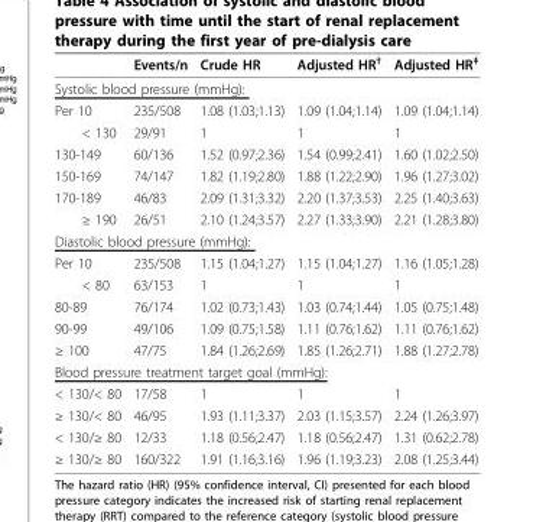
<table><thead><tr><td></td><td>Events/n</td><td>Crude HR</td><td>Adjusted HR<sup>†</sup></td><td>Adjusted HR<sup>‡</sup></td></tr></thead><tbody><tr><td colspan="5">Systolic blood pressure (mmHg):</td></tr><tr><td>Per 10</td><td>235/508</td><td>1.08 (1.03;1.13)</td><td>1.09 (1.04;1.14)</td><td>1.09 (1.04;1.14)</td></tr><tr><td>&lt; 130</td><td>29/91</td><td>1</td><td>1</td><td>1</td></tr><tr><td>130-149</td><td>60/136</td><td>1.52 (0.97;2.36)</td><td>1.54 (0.99;2.41)</td><td>1.60 (1.02;2.50)</td></tr><tr><td>150-169</td><td>74/147</td><td>1.82 (1.19;2.80)</td><td>1.88 (1.22;2.90)</td><td>1.96 (1.27;3.02)</td></tr><tr><td>170-189</td><td>46/83</td><td>2.09 (1.31;3.32)</td><td>2.20 (1.37;3.53)</td><td>2.25 (1.40;3.63)</td></tr><tr><td>≥ 190</td><td>26/51</td><td>2.10 (1.24;3.57)</td><td>2.27 (1.33;3.90)</td><td>2.21 (1.28;3.80)</td></tr><tr><td colspan="5">Diastolic blood pressure (mmHg):</td></tr><tr><td>Per 10</td><td>235/508</td><td>1.15 (1.04;1.27)</td><td>1.15 (1.04;1.27)</td><td>1.16 (1.05;1.28)</td></tr><tr><td>&lt; 80</td><td>63/153</td><td>1</td><td>1</td><td>1</td></tr><tr><td>80-89</td><td>76/174</td><td>1.02 (0.73;1.43)</td><td>1.03 (0.74;1.44)</td><td>1.05 (0.75;1.48)</td></tr><tr><td>90-99</td><td>49/106</td><td>1.09 (0.75;1.58)</td><td>1.11 (0.76;1.62)</td><td>1.11 (0.76;1.62)</td></tr><tr><td>≥ 100</td><td>47/75</td><td>1.84 (1.26;2.69)</td><td>1.85 (1.26;2.71)</td><td>1.88 (1.27;2.78)</td></tr><tr><td colspan="5">Blood pressure treatment target goal (mmHg):</td></tr><tr><td>&lt; 130/&lt; 80</td><td>17/58</td><td>1</td><td>1</td><td>1</td></tr><tr><td>≥ 130/&lt; 80</td><td>46/95</td><td>1.93 (1.11;3.37)</td><td>2.03 (1.15;3.57)</td><td>2.24 (1.26;3.97)</td></tr><tr><td>&lt; 130/≥ 80</td><td>12/33</td><td>1.18 (0.56;2.47)</td><td>1.18 (0.56;2.47)</td><td>1.31 (0.62;2.78)</td></tr><tr><td>≥ 130/≥ 80</td><td>160/322</td><td>1.91 (1.16;3.16)</td><td>1.96 (1.19;3.23)</td><td>2.08 (1.25;3.44)</td></tr></tbody></table>